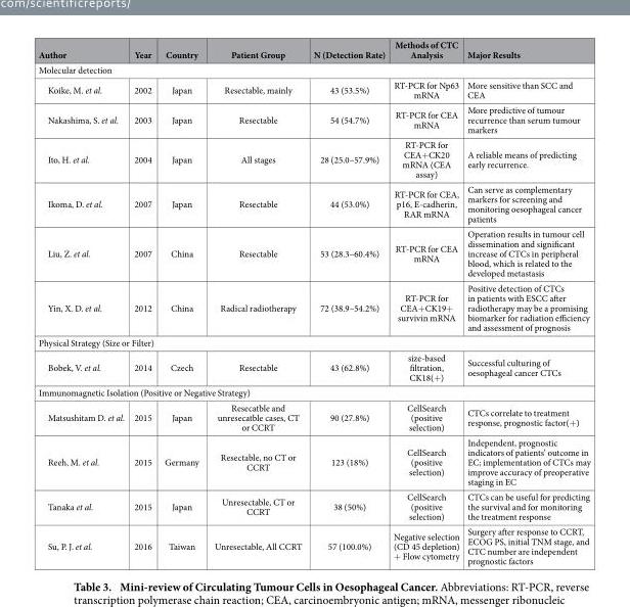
<table><thead><tr><td>Author</td><td>Year</td><td>Country</td><td>Patient Group</td><td>N (Detection Rate)</td><td>Methods of CTC Analysis</td><td>Major Results</td></tr></thead><tbody><tr><td colspan="7">Molecular detection</td></tr><tr><td>Koike, M. et al.</td><td>2002</td><td>Japan</td><td>Resectable, mainly</td><td>43 (53.5%)</td><td>RT-PCR for Np63 mRNA</td><td>More sensitive than SCC and CEA</td></tr><tr><td>Nakashima, S. et al.</td><td>2003</td><td>Japan</td><td>Resectable</td><td>54 (54.7%)</td><td>RT-PCR for CEA mRNA</td><td>More predictive of tumour recurrence than serum tumour markers</td></tr><tr><td>Ito, H. et al.</td><td>2004</td><td>Japan</td><td>All stages</td><td>28 (25.0–57.9%)</td><td>RT-PCR for CEA+ CK20 mRNA (CEA assay)</td><td>A reliable means of predicting early recurrence.</td></tr><tr><td>Ikoma, D. et al.</td><td>2007</td><td>Japan</td><td>Resectable</td><td>44 (53.0%)</td><td>RT-PCR for CEA, p16, E-cadherin, RAR mRNA</td><td>Can serve as complementary markers for screening and monitoring oesophageal cancer patients</td></tr><tr><td>Liu, Z. et al.</td><td>2007</td><td>China</td><td>Resectable</td><td>53 (28.3–60.4%)</td><td>RT-PCR for CEA mRNA</td><td>Operation results in tumour cell dissemination and significant increase of CTCs in peripheral blood, which is related to the developed metastasis</td></tr><tr><td>Yin, X. D. et al.</td><td>2012</td><td>China</td><td>Radical radiotherapy</td><td>72 (38.9–54.2%)</td><td>RT-PCR for CEA+ CK19+ survivin mRNA</td><td>Positive detection of CTCs in patients with ESCC after radiotherapy may be a promising biomarker for radiation efficiency and assessment of prognosis</td></tr><tr><td colspan="7">Physical Strategy (Size or Filter)</td></tr><tr><td>Bobek, V. et al.</td><td>2014</td><td>Czech</td><td>Resectable</td><td>43 (62.8%)</td><td>size-based filtration, CK18(+ )</td><td>Successful culturing of oesophageal cancer CTCs</td></tr><tr><td colspan="7">Immunomagnetic Isolation (Positive or Negative Strategy)</td></tr><tr><td>Matsushitam D. et al.</td><td>2015</td><td>Japan</td><td>Resecatble and unresecatble cases, CT or CCRT</td><td>90 (27.8%)</td><td>CellSearch (positive selection)</td><td>CTCs correlate to treatment response, prognostic factor(+ )</td></tr><tr><td>Reeh, M. et al.</td><td>2015</td><td>Germany</td><td>Resectable, no CT or CCRT</td><td>123 (18%)</td><td>CellSearch (positive selection)</td><td>Independent, prognostic indicators of patients’ outcome in EC; implementation of CTCs may improve accuracy of preoperative staging in EC</td></tr><tr><td>Tanaka et al.</td><td>2015</td><td>Japan</td><td>Unresectable, CT or CCRT</td><td>38 (50%)</td><td>CellSearch (positive selection)</td><td>CTCs can be useful for predicting the survival and for monitoring the treatment response</td></tr><tr><td>Su, P. J. et al.</td><td>2016</td><td>Taiwan</td><td>Unresectable, All CCRT</td><td>57 (100.0%)</td><td>Negative selection (CD 45 depletion) + Flow cytometry</td><td>Surgery after response to CCRT, ECOG PS, initial TNM stage, and CTC number are independent prognostic factors</td></tr></tbody></table>